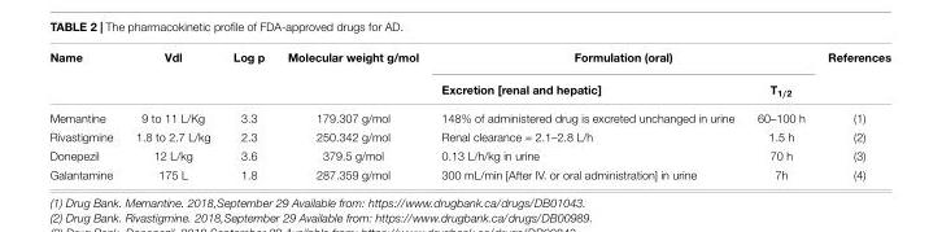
<table><thead><tr><td rowspan="2">Name</td><td rowspan="2">Vdl</td><td rowspan="2">Log p</td><td rowspan="2">Molecular weight g/mol</td><td colspan="2">Formulation (oral)</td><td rowspan="2">References</td></tr><tr><td>Excretion [renal and hepatic]</td><td>T<sub>1/2</sub></td></tr></thead><tbody><tr><td>Memantine</td><td>9 to 11 L/Kg</td><td>3.3</td><td>179.307 g/mol</td><td>148% of administered drug is excreted unchanged in urine</td><td>60–100 h</td><td>(1)</td></tr><tr><td>Rivastigmine</td><td>1.8 to 2.7 L/kg</td><td>2.3</td><td>250.342 g/mol</td><td>Renal clearance = 2.1–2.8 L/h</td><td>1.5 h</td><td>(2)</td></tr><tr><td>Donepezil</td><td>12 L/kg</td><td>3.6</td><td>379.5 g/mol</td><td>0.13 L/h/kg in urine</td><td>70 h</td><td>(3)</td></tr><tr><td>Galantamine</td><td>175 L</td><td>1.8</td><td>287.359 g/mol</td><td>300 mL/min [After IV. or oral administration] in urine</td><td>7h</td><td>(4)</td></tr></tbody></table>